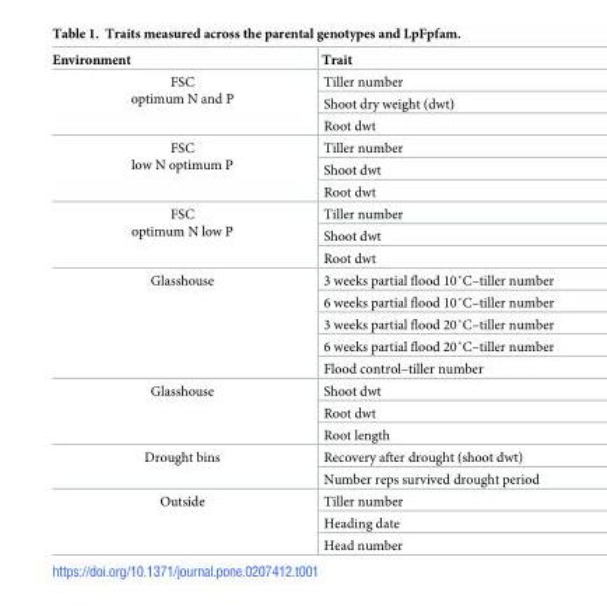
<table><thead><tr><td>Environment</td><td>Trait</td></tr></thead><tbody><tr><td rowspan="3">FSC optimum N and P</td><td>Tiller number</td></tr><tr><td>Shoot dry weight (dwt)</td></tr><tr><td>Root dwt</td></tr><tr><td rowspan="3">FSC low N optimum P</td><td>Tiller number</td></tr><tr><td>Shoot dwt</td></tr><tr><td>Root dwt</td></tr><tr><td rowspan="3">FSC optimum N low P</td><td>Tiller number</td></tr><tr><td>Shoot dwt</td></tr><tr><td>Root dwt</td></tr><tr><td rowspan="5">Glasshouse</td><td>3 weeks partial flood 10˚C–tiller number</td></tr><tr><td>6 weeks partial flood 10˚C–tiller number</td></tr><tr><td>3 weeks partial flood 20˚C–tiller number</td></tr><tr><td>6 weeks partial flood 20˚C–tiller number</td></tr><tr><td>Flood control–tiller number</td></tr><tr><td rowspan="3">Glasshouse</td><td>Shoot dwt</td></tr><tr><td>Root dwt</td></tr><tr><td>Root length</td></tr><tr><td rowspan="2">Drought bins</td><td>Recovery after drought (shoot dwt)</td></tr><tr><td>Number reps survived drought period</td></tr><tr><td rowspan="3">Outside</td><td>Tiller number</td></tr><tr><td>Heading date</td></tr><tr><td>Head number</td></tr></tbody></table>